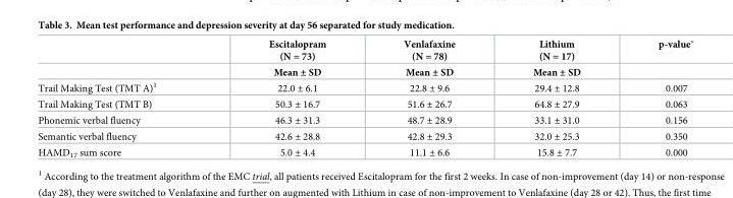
<table><thead><tr><td rowspan="2"></td><td rowspan="2">Escitalopram (N = 73) Mean ± SD</td><td rowspan="2">Venlafaxine (N = 78) Mean ± SD</td><td rowspan="2">Lithium (N = 17) Mean ± SD</td><td rowspan="2">p-value*</td></tr><tr></tr></thead><tbody><tr><td>Trail Making Test (TMT A)<sup>1</sup></td><td>22.0 ± 6.1</td><td>22.8 ± 9.6</td><td>29.4 ± 12.8</td><td>0.007</td></tr><tr><td>Trail Making Test (TMT B)</td><td>50.3 ± 16.7</td><td>51.6 ± 26.7</td><td>64.8 ± 27.9</td><td>0.063</td></tr><tr><td>Phonemic verbal fluency</td><td>46.3 ± 31.3</td><td>48.7 ± 28.9</td><td>33.1 ± 31.0</td><td>0.156</td></tr><tr><td>Semantic verbal fluency</td><td>42.6 ± 28.8</td><td>42.8 ± 29.3</td><td>32.0 ± 25.3</td><td>0.350</td></tr><tr><td>HAMD<sub>17</sub> sum score</td><td>5.0 ± 4.4</td><td>11.1 ± 6.6</td><td>15.8 ± 7.7</td><td>0.000</td></tr></tbody></table>